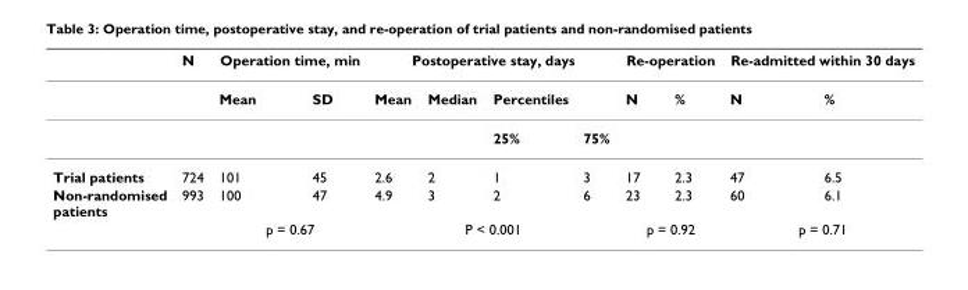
<table><thead><tr><td rowspan="2"></td><td rowspan="2">N</td><td colspan="2">Operation time, min</td><td colspan="4">Postoperative stay, days</td><td colspan="2">Re-operation</td><td colspan="2">Re-admitted within 30 days</td></tr><tr><td>Mean</td><td>SD</td><td>Mean</td><td>Median</td><td>Percentiles</td><td></td><td>N</td><td>%</td><td>N</td><td>%</td></tr></thead><tbody><tr><td></td><td></td><td></td><td></td><td></td><td></td><td>25%</td><td>75%</td><td></td><td></td><td></td><td></td></tr><tr><td>Trial patients</td><td>724</td><td>101</td><td>45</td><td>2.6</td><td>2</td><td>1</td><td>3</td><td>17</td><td>2.3</td><td>47</td><td>6.5</td></tr><tr><td rowspan="2">Non-randomised patients</td><td>993</td><td>100</td><td>47</td><td>4.9</td><td>3</td><td>2</td><td>6</td><td>23</td><td>2.3</td><td>60</td><td>6.1</td></tr><tr><td></td><td colspan="2">p = 0.67</td><td colspan="4">P &lt; 0.001</td><td colspan="2">p = 0.92</td><td colspan="2">p = 0.71</td></tr></tbody></table>